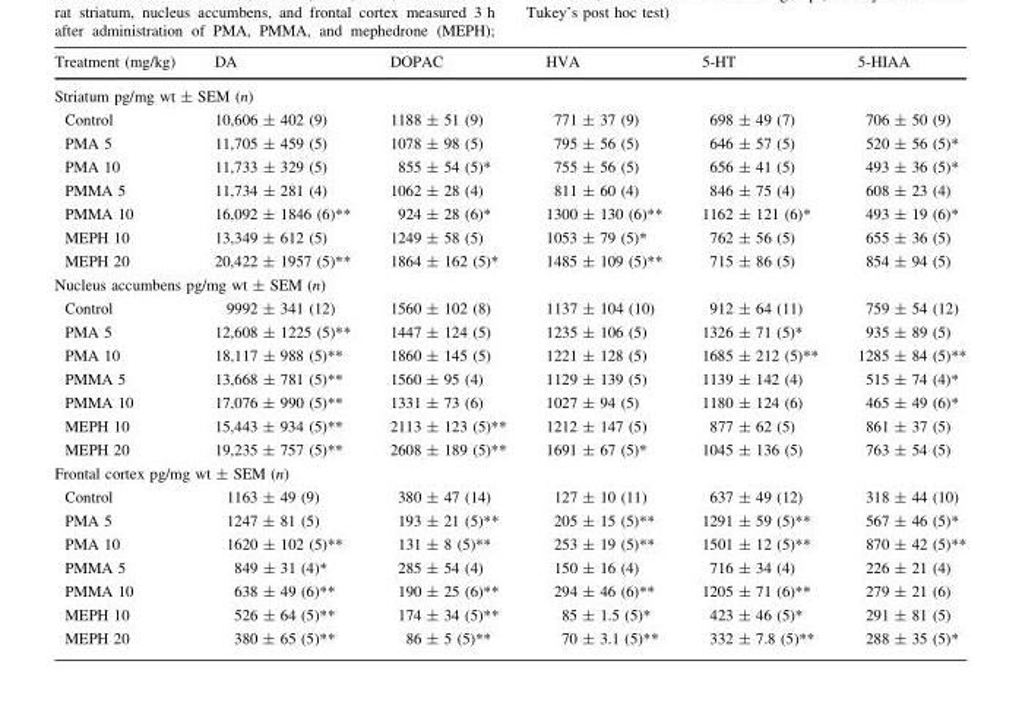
<table><thead><tr><td>Treatment (mg/kg)</td><td>DA</td><td>DOPAC</td><td>HVA</td><td>5-HT</td><td>5-HIAA</td></tr></thead><tbody><tr><td colspan="6">Striatum pg/mg wt ± SEM (n)</td></tr><tr><td>Control</td><td>10,606 ± 402 (9)</td><td>1188 ± 51 (9)</td><td>771 ± 37 (9)</td><td>698 ± 49 (7)</td><td>706 ± 50 (9)</td></tr><tr><td>PMA 5</td><td>11,705 ± 459 (5)</td><td>1078 ± 98 (5)</td><td>795 ± 56 (5)</td><td>646 ± 57 (5)</td><td>520 ± 56 (5)*</td></tr><tr><td>PMA 10</td><td>11,733 ± 329 (5)</td><td>855 ± 54 (5)*</td><td>755 ± 56 (5)</td><td>656 ± 41 (5)</td><td>493 ± 36 (5)*</td></tr><tr><td>PMMA 5</td><td>11,734 ± 281 (4)</td><td>1062 ± 28 (4)</td><td>811 ± 60 (4)</td><td>846 ± 75 (4)</td><td>608 ± 23 (4)</td></tr><tr><td>PMMA 10</td><td>16,092 ± 1846 (6)**</td><td>924 ± 28 (6)*</td><td>1300 ± 130 (6)**</td><td>1162 ± 121 (6)*</td><td>493 ± 19 (6)*</td></tr><tr><td>MEPH 10</td><td>13,349 ± 612 (5)</td><td>1249 ± 58 (5)</td><td>1053 ± 79 (5)*</td><td>762 ± 56 (5)</td><td>655 ± 36 (5)</td></tr><tr><td>MEPH 20</td><td>20,422 ± 1957 (5)**</td><td>1864 ± 162 (5)*</td><td>1485 ± 109 (5)**</td><td>715 ± 86 (5)</td><td>854 ± 94 (5)</td></tr><tr><td colspan="6">Nucleus accumbens pg/mg wt ± SEM (n)</td></tr><tr><td>Control</td><td>9992 ± 341 (12)</td><td>1560 ± 102 (8)</td><td>1137 ± 104 (10)</td><td>912 ± 64 (11)</td><td>759 ± 54 (12)</td></tr><tr><td>PMA 5</td><td>12,608 ± 1225 (5)**</td><td>1447 ± 124 (5)</td><td>1235 ± 106 (5)</td><td>1326 ± 71 (5)*</td><td>935 ± 89 (5)</td></tr><tr><td>PMA 10</td><td>18,117 ± 988 (5)**</td><td>1860 ± 145 (5)</td><td>1221 ± 128 (5)</td><td>1685 ± 212 (5)**</td><td>1285 ± 84 (5)**</td></tr><tr><td>PMMA 5</td><td>13,668 ± 781 (5)**</td><td>1560 ± 95 (4)</td><td>1129 ± 139 (5)</td><td>1139 ± 142 (4)</td><td>515 ± 74 (4)*</td></tr><tr><td>PMMA 10</td><td>17,076 ± 990 (5)**</td><td>1331 ± 73 (6)</td><td>1027 ± 94 (5)</td><td>1180 ± 124 (6)</td><td>465 ± 49 (6)*</td></tr><tr><td>MEPH 10</td><td>15,443 ± 934 (5)**</td><td>2113 ± 123 (5)**</td><td>1212 ± 147 (5)</td><td>877 ± 62 (5)</td><td>861 ± 37 (5)</td></tr><tr><td>MEPH 20</td><td>19,235 ± 757 (5)**</td><td>2608 ± 189 (5)**</td><td>1691 ± 67 (5)*</td><td>1045 ± 136 (5)</td><td>763 ± 54 (5)</td></tr><tr><td colspan="6">Frontal cortex pg/mg wt ± SEM (n)</td></tr><tr><td>Control</td><td>1163 ± 49 (9)</td><td>380 ± 47 (14)</td><td>127 ± 10 (11)</td><td>637 ± 49 (12)</td><td>318 ± 44 (10)</td></tr><tr><td>PMA 5</td><td>1247 ± 81 (5)</td><td>193 ± 21 (5)**</td><td>205 ± 15 (5)**</td><td>1291 ± 59 (5)**</td><td>567 ± 46 (5)*</td></tr><tr><td>PMA 10</td><td>1620 ± 102 (5)**</td><td>131 ± 8 (5)**</td><td>253 ± 19 (5)**</td><td>1501 ± 12 (5)**</td><td>870 ± 42 (5)**</td></tr><tr><td>PMMA 5</td><td>849 ± 31 (4)*</td><td>285 ± 54 (4)</td><td>150 ± 16 (4)</td><td>716 ± 34 (4)</td><td>226 ± 21 (4)</td></tr><tr><td>PMMA 10</td><td>638 ± 49 (6)**</td><td>190 ± 25 (6)**</td><td>294 ± 46 (6)**</td><td>1205 ± 71 (6)**</td><td>279 ± 21 (6)</td></tr><tr><td>MEPH 10</td><td>526 ± 64 (5)**</td><td>174 ± 34 (5)**</td><td>85 ± 1.5 (5)*</td><td>423 ± 46 (5)*</td><td>291 ± 81 (5)</td></tr><tr><td>MEPH 20</td><td>380 ± 65 (5)**</td><td>86 ± 5 (5)**</td><td>70 ± 3.1 (5)**</td><td>332 ± 7.8 (5)**</td><td>288 ± 35 (5)*</td></tr></tbody></table>